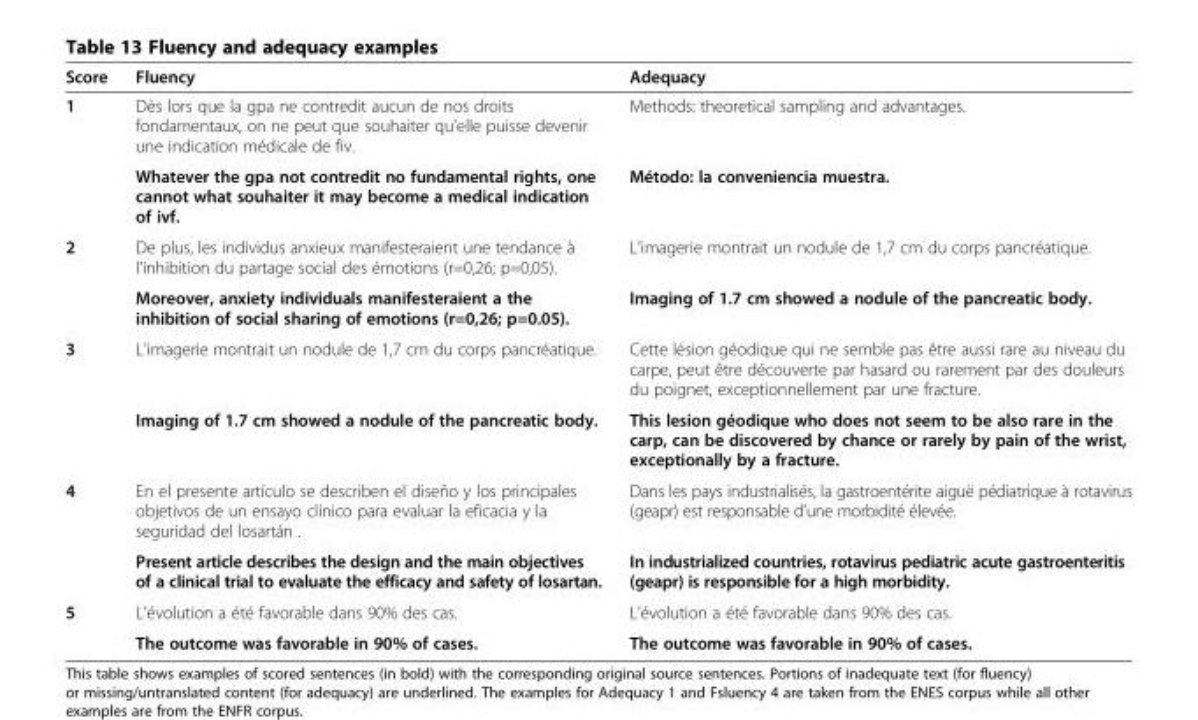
<table><thead><tr><td>Score</td><td>Fluency</td><td>Adequacy</td></tr></thead><tbody><tr><td rowspan="2">1</td><td>Dès lors que la gpa ne contredit aucun de nos droits fondamentaux, on ne peut que souhaiter qu&#x27;elle puisse devenir une indication médicale de fiv.</td><td>Methods: theoretical sampling and advantages.</td></tr><tr><td>Whatever the gpa not contredit no fundamental rights, one cannot what souhaiter it may become a medical indication of ivf.</td><td>Método: la conveniencia muestra.</td></tr><tr><td rowspan="2">2</td><td>De plus, les individus anxieux manifesteraient une tendance à l’inhibition du partage social des émotions (r=0,26; p=0,05).</td><td>L’imagerie montrait un nodule de 1,7 cm du corps pancréatique.</td></tr><tr><td>Moreover, anxiety individuals manifesteraient a the inhibition of social sharing of emotions (r=0,26; p=0.05).</td><td>Imaging of 1.7 cm showed a nodule of the pancreatic body.</td></tr><tr><td rowspan="2">3</td><td>L’imagerie montrait un nodule de 1,7 cm du corps pancréatique.</td><td>Cette lésion géodique qui ne semble pas être aussi rare au niveau du carpe, peut être découverte par hasard ou rarement par des douleurs du poignet, exceptionnellement par une fracture.</td></tr><tr><td>Imaging of 1.7 cm showed a nodule of the pancreatic body.</td><td>This lesion géodique who does not seem to be also rare in the carp, can be discovered by chance or rarely by pain of the wrist, exceptionally by a fracture.</td></tr><tr><td rowspan="2">4</td><td>En el presente artículo se describen el diseño y los principales objetivos de un ensayo clínico para evaluar la eficacia y la seguridad del losartán .</td><td>Dans les pays industrialisés, la gastroentérite aiguë pédiatrique à rotavirus (geapr) est responsable d’une morbidité élevée.</td></tr><tr><td>Present article describes the design and the main objectives of a clinical trial to evaluate the efficacy and safety of losartan.</td><td>In industrialized countries, rotavirus pediatric acute gastroenteritis (geapr) is responsible for a high morbidity.</td></tr><tr><td rowspan="2">5</td><td>L’évolution a été favorable dans 90% des cas.</td><td>L’évolution a été favorable dans 90% des cas.</td></tr><tr><td>The outcome was favorable in 90% of cases.</td><td>The outcome was favorable in 90% of cases.</td></tr></tbody></table>